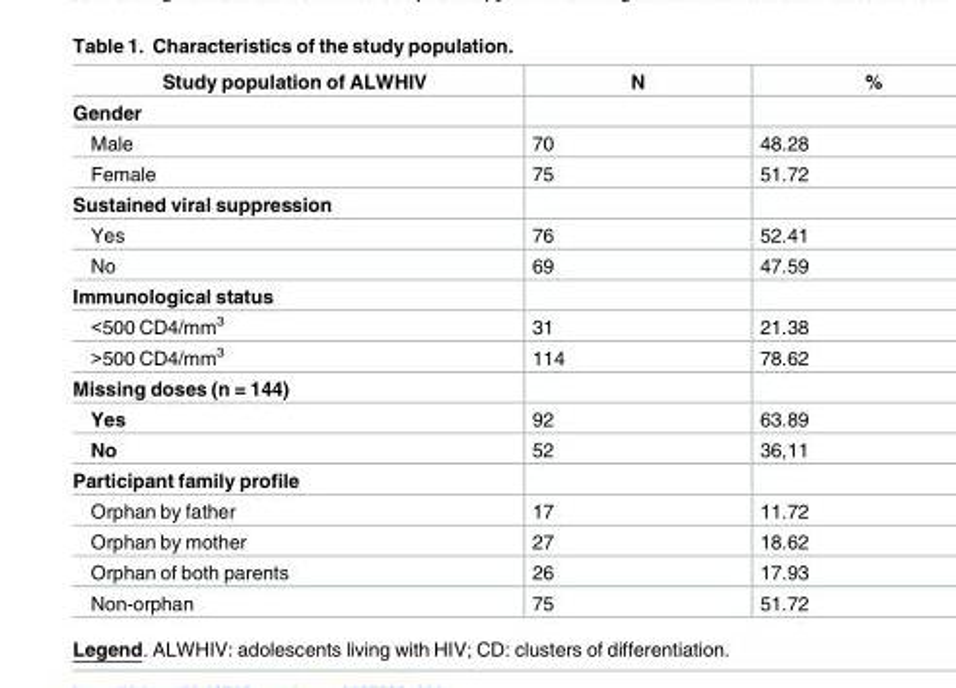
<table><thead><tr><td>Study population of ALWHIV</td><td>N</td><td>%</td></tr></thead><tbody><tr><td colspan="3">Gender</td></tr><tr><td>Male</td><td>70</td><td>48.28</td></tr><tr><td>Female</td><td>75</td><td>51.72</td></tr><tr><td colspan="3">Sustained viral suppression</td></tr><tr><td>Yes</td><td>76</td><td>52.41</td></tr><tr><td>No</td><td>69</td><td>47.59</td></tr><tr><td colspan="3">Immunological status</td></tr><tr><td>&lt;500 CD4/mm<sup>3</sup></td><td>31</td><td>21.38</td></tr><tr><td>&gt;500 CD4/mm<sup>3</sup></td><td>114</td><td>78.62</td></tr><tr><td colspan="3">Missing doses (n = 144)</td></tr><tr><td>Yes</td><td>92</td><td>63.89</td></tr><tr><td>No</td><td>52</td><td>36,11</td></tr><tr><td colspan="3">Participant family profile</td></tr><tr><td>Orphan by father</td><td>17</td><td>11.72</td></tr><tr><td>Orphan by mother</td><td>27</td><td>18.62</td></tr><tr><td>Orphan of both parents</td><td>26</td><td>17.93</td></tr><tr><td>Non-orphan</td><td>75</td><td>51.72</td></tr></tbody></table>